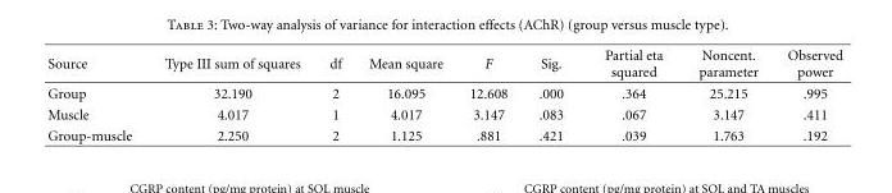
<table><thead><tr><td>Source</td><td>Type III sum of squares</td><td>df</td><td>Mean square</td><td>F</td><td>Sig.</td><td>Partial eta squared</td><td>Noncent. parameter</td><td>Observed power</td></tr></thead><tbody><tr><td>Group</td><td>32.190</td><td>2</td><td>16.095</td><td>12.608</td><td>.000</td><td>.364</td><td>25.215</td><td>.995</td></tr><tr><td>Muscle</td><td>4.017</td><td>1</td><td>4.017</td><td>3.147</td><td>.083</td><td>.067</td><td>3.147</td><td>.411</td></tr><tr><td>Group-muscle</td><td>2.250</td><td>2</td><td>1.125</td><td>.881</td><td>.421</td><td>.039</td><td>1.763</td><td>.192</td></tr></tbody></table>